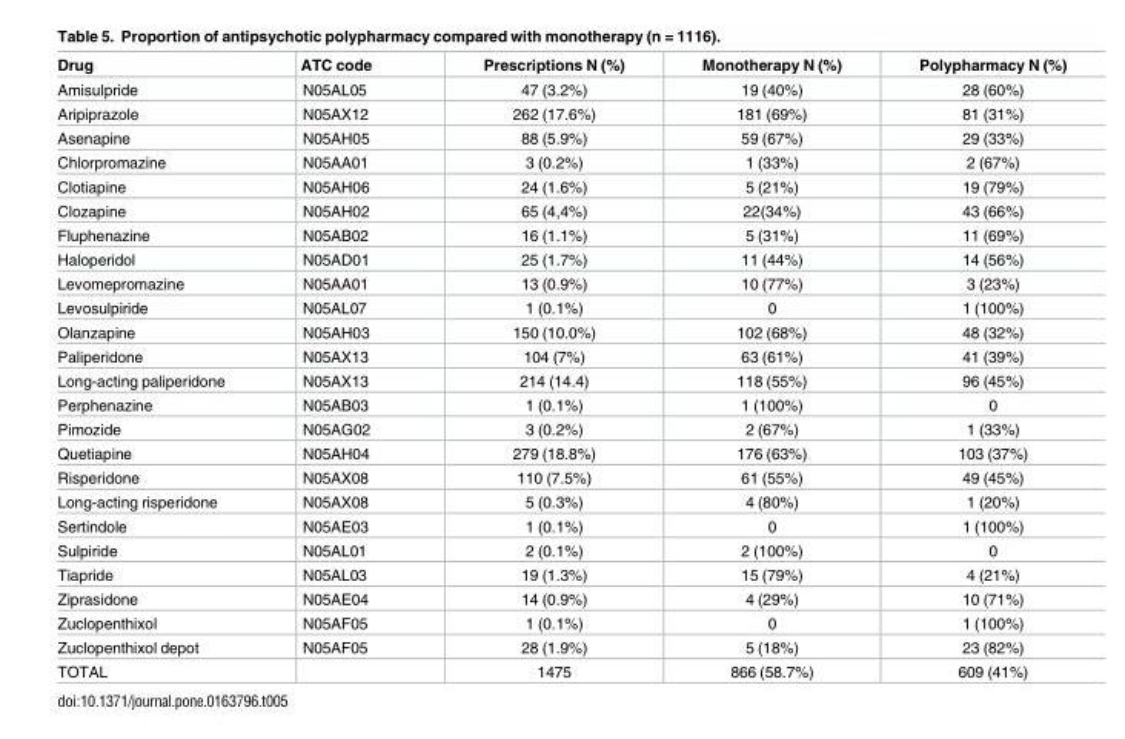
<table><thead><tr><td>Drug</td><td>ATC code</td><td>Prescriptions N (%)</td><td>Monotherapy N (%)</td><td>Polypharmacy N (%)</td></tr></thead><tbody><tr><td>Amisulpride</td><td>N05AL05</td><td>47 (3.2%)</td><td>19 (40%)</td><td>28 (60%)</td></tr><tr><td>Aripiprazole</td><td>N05AX12</td><td>262 (17.6%)</td><td>181 (69%)</td><td>81 (31%)</td></tr><tr><td>Asenapine</td><td>N05AH05</td><td>88 (5.9%)</td><td>59 (67%)</td><td>29 (33%)</td></tr><tr><td>Chlorpromazine</td><td>N05AA01</td><td>3 (0.2%)</td><td>1 (33%)</td><td>2 (67%)</td></tr><tr><td>Clotiapine</td><td>N05AH06</td><td>24 (1.6%)</td><td>5 (21%)</td><td>19 (79%)</td></tr><tr><td>Clozapine</td><td>N05AH02</td><td>65 (4,4%)</td><td>22(34%)</td><td>43 (66%)</td></tr><tr><td>Fluphenazine</td><td>N05AB02</td><td>16 (1.1%)</td><td>5 (31%)</td><td>11 (69%)</td></tr><tr><td>Haloperidol</td><td>N05AD01</td><td>25 (1.7%)</td><td>11 (44%)</td><td>14 (56%)</td></tr><tr><td>Levomepromazine</td><td>N05AA01</td><td>13 (0.9%)</td><td>10 (77%)</td><td>3 (23%)</td></tr><tr><td>Levosulpiride</td><td>N05AL07</td><td>1 (0.1%)</td><td>0</td><td>1 (100%)</td></tr><tr><td>Olanzapine</td><td>N05AH03</td><td>150 (10.0%)</td><td>102 (68%)</td><td>48 (32%)</td></tr><tr><td>Paliperidone</td><td>N05AX13</td><td>104 (7%)</td><td>63 (61%)</td><td>41 (39%)</td></tr><tr><td>Long-acting paliperidone</td><td>N05AX13</td><td>214 (14.4)</td><td>118 (55%)</td><td>96 (45%)</td></tr><tr><td>Perphenazine</td><td>N05AB03</td><td>1 (0.1%)</td><td>1 (100%)</td><td>0</td></tr><tr><td>Pimozide</td><td>N05AG02</td><td>3 (0.2%)</td><td>2 (67%)</td><td>1 (33%)</td></tr><tr><td>Quetiapine</td><td>N05AH04</td><td>279 (18.8%)</td><td>176 (63%)</td><td>103 (37%)</td></tr><tr><td>Risperidone</td><td>N05AX08</td><td>110 (7.5%)</td><td>61 (55%)</td><td>49 (45%)</td></tr><tr><td>Long-acting risperidone</td><td>N05AX08</td><td>5 (0.3%)</td><td>4 (80%)</td><td>1 (20%)</td></tr><tr><td>Sertindole</td><td>N05AE03</td><td>1 (0.1%)</td><td>0</td><td>1 (100%)</td></tr><tr><td>Sulpiride</td><td>N05AL01</td><td>2 (0.1%)</td><td>2 (100%)</td><td>0</td></tr><tr><td>Tiapride</td><td>N05AL03</td><td>19 (1.3%)</td><td>15 (79%)</td><td>4 (21%)</td></tr><tr><td>Ziprasidone</td><td>N05AE04</td><td>14 (0.9%)</td><td>4 (29%)</td><td>10 (71%)</td></tr><tr><td>Zuclopenthixol</td><td>N05AF05</td><td>1 (0.1%)</td><td>0</td><td>1 (100%)</td></tr><tr><td>Zuclopenthixol depot</td><td>N05AF05</td><td>28 (1.9%)</td><td>5 (18%)</td><td>23 (82%)</td></tr><tr><td>TOTAL</td><td></td><td>1475</td><td>866 (58.7%)</td><td>609 (41%)</td></tr></tbody></table>